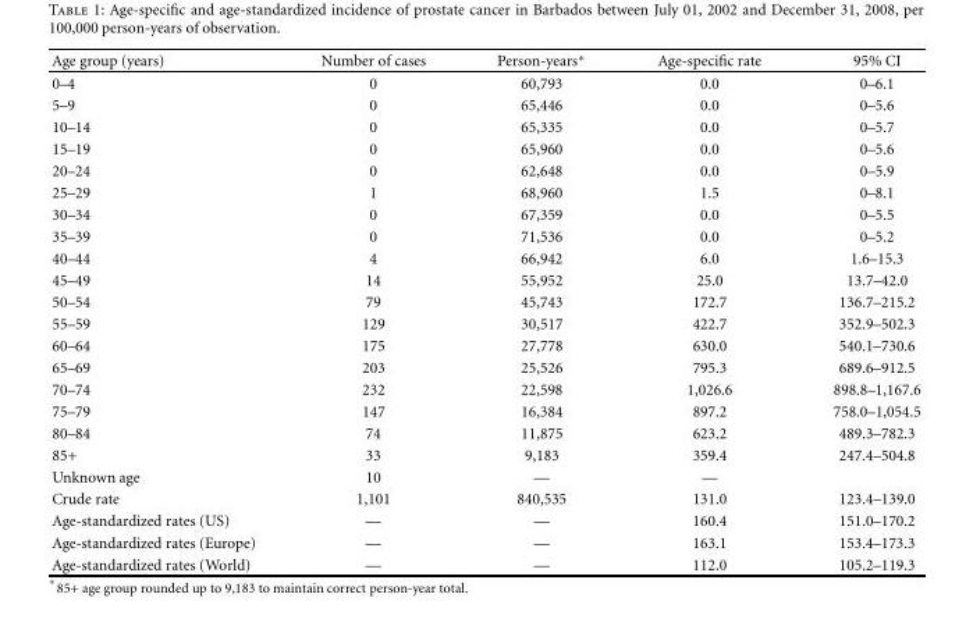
<table><thead><tr><td>Age group (years)</td><td>Number of cases</td><td>Person-years∗</td><td>Age-specific rate</td><td>95% CI</td></tr></thead><tbody><tr><td>0–4</td><td>0</td><td>60,793</td><td>0.0</td><td>0–6.1</td></tr><tr><td>5–9</td><td>0</td><td>65,446</td><td>0.0</td><td>0–5.6</td></tr><tr><td>10–14</td><td>0</td><td>65,335</td><td>0.0</td><td>0–5.7</td></tr><tr><td>15–19</td><td>0</td><td>65,960</td><td>0.0</td><td>0–5.6</td></tr><tr><td>20–24</td><td>0</td><td>62,648</td><td>0.0</td><td>0–5.9</td></tr><tr><td>25–29</td><td>1</td><td>68,960</td><td>1.5</td><td>0–8.1</td></tr><tr><td>30–34</td><td>0</td><td>67,359</td><td>0.0</td><td>0–5.5</td></tr><tr><td>35–39</td><td>0</td><td>71,536</td><td>0.0</td><td>0–5.2</td></tr><tr><td>40–44</td><td>4</td><td>66,942</td><td>6.0</td><td>1.6–15.3</td></tr><tr><td>45–49</td><td>14</td><td>55,952</td><td>25.0</td><td>13.7–42.0</td></tr><tr><td>50–54</td><td>79</td><td>45,743</td><td>172.7</td><td>136.7–215.2</td></tr><tr><td>55–59</td><td>129</td><td>30,517</td><td>422.7</td><td>352.9–502.3</td></tr><tr><td>60–64</td><td>175</td><td>27,778</td><td>630.0</td><td>540.1–730.6</td></tr><tr><td>65–69</td><td>203</td><td>25,526</td><td>795.3</td><td>689.6–912.5</td></tr><tr><td>70–74</td><td>232</td><td>22,598</td><td>1,026.6</td><td>898.8–1,167.6</td></tr><tr><td>75–79</td><td>147</td><td>16,384</td><td>897.2</td><td>758.0–1,054.5</td></tr><tr><td>80–84</td><td>74</td><td>11,875</td><td>623.2</td><td>489.3–782.3</td></tr><tr><td>85+</td><td>33</td><td>9,183</td><td>359.4</td><td>247.4–504.8</td></tr><tr><td>Unknown age</td><td>10</td><td>—</td><td>—</td><td></td></tr><tr><td>Crude rate</td><td>1,101</td><td>840,535</td><td>131.0</td><td>123.4–139.0</td></tr><tr><td>Age-standardized rates (US)</td><td>—</td><td>—</td><td>160.4</td><td>151.0–170.2</td></tr><tr><td>Age-standardized rates (Europe)</td><td>—</td><td>—</td><td>163.1</td><td>153.4–173.3</td></tr><tr><td>Age-standardized rates (World)</td><td>—</td><td>—</td><td>112.0</td><td>105.2–119.3</td></tr></tbody></table>